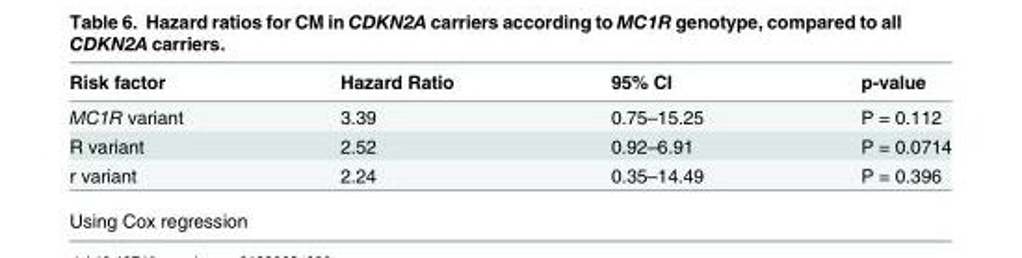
<table><thead><tr><td>Risk factor</td><td>Hazard Ratio</td><td>95% CI</td><td>p-value</td></tr></thead><tbody><tr><td>MC1R variant</td><td>3.39</td><td>0.75–15.25</td><td>P = 0.112</td></tr><tr><td>R variant</td><td>2.52</td><td>0.92–6.91</td><td>P = 0.0714</td></tr><tr><td>r variant</td><td>2.24</td><td>0.35–14.49</td><td>P = 0.396</td></tr></tbody></table>